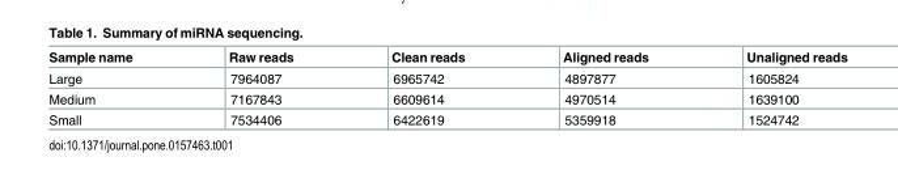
<table><thead><tr><td>Sample name</td><td>Raw reads</td><td>Clean reads</td><td>Aligned reads</td><td>Unaligned reads</td></tr></thead><tbody><tr><td>Large</td><td>7964087</td><td>6965742</td><td>4897877</td><td>1605824</td></tr><tr><td>Medium</td><td>7167843</td><td>6609614</td><td>4970514</td><td>1639100</td></tr><tr><td>Small</td><td>7534406</td><td>6422619</td><td>5359918</td><td>1524742</td></tr></tbody></table>